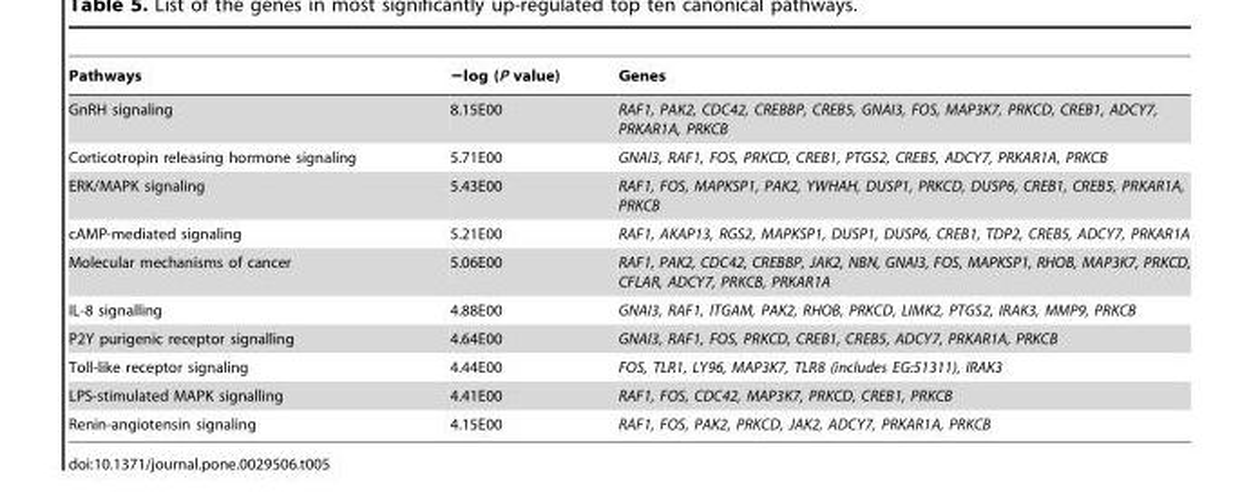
<table><thead><tr><td>Pathways</td><td>−log (P value)</td><td>Genes</td></tr></thead><tbody><tr><td>GnRH signaling</td><td>8.15E00</td><td>RAF1, PAK2, CDC42, CREBBP, CREB5, GNAI3, FOS, MAP3K7, PRKCD, CREB1, ADCY7, PRKAR1A, PRKCB</td></tr><tr><td>Corticotropin releasing hormone signaling</td><td>5.71E00</td><td>GNAI3, RAF1, FOS, PRKCD, CREB1, PTGS2, CREB5, ADCY7, PRKAR1A, PRKCB</td></tr><tr><td>ERK/MAPK signaling</td><td>5.43E00</td><td>RAF1, FOS, MAPKSP1, PAK2, YWHAH, DUSP1, PRKCD, DUSP6, CREB1, CREB5, PRKAR1A, PRKCB</td></tr><tr><td>cAMP-mediated signaling</td><td>5.21E00</td><td>RAF1, AKAP13, RGS2, MAPKSP1, DUSP1, DUSP6, CREB1, TDP2, CREB5, ADCY7, PRKAR1A</td></tr><tr><td>Molecular mechanisms of cancer</td><td>5.06E00</td><td>RAF1, PAK2, CDC42, CREBBP, JAK2, NBN, GNAI3, FOS, MAPKSP1, RHOB, MAP3K7, PRKCD, CFLAR, ADCY7, PRKCB, PRKAR1A</td></tr><tr><td>IL-8 signalling</td><td>4.88E00</td><td>GNAI3, RAF1, ITGAM, PAK2, RHOB, PRKCD, LIMK2, PTGS2, IRAK3, MMP9, PRKCB</td></tr><tr><td>P2Y purigenic receptor signalling</td><td>4.64E00</td><td>GNAI3, RAF1, FOS, PRKCD, CREB1, CREB5, ADCY7, PRKAR1A, PRKCB</td></tr><tr><td>Toll-like receptor signaling</td><td>4.44E00</td><td>FOS, TLR1, LY96, MAP3K7, TLR8 (includes EG:51311), IRAK3</td></tr><tr><td>LPS-stimulated MAPK signalling</td><td>4.41E00</td><td>RAF1, FOS, CDC42, MAP3K7, PRKCD, CREB1, PRKCB</td></tr><tr><td>Renin-angiotensin signaling</td><td>4.15E00</td><td>RAF1, FOS, PAK2, PRKCD, JAK2, ADCY7, PRKAR1A, PRKCB</td></tr></tbody></table>